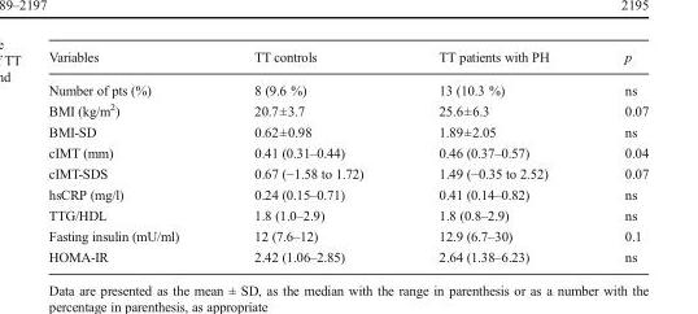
<table><thead><tr><td>Variables</td><td>TT controls</td><td>TT patients with PH</td><td>p</td></tr></thead><tbody><tr><td>Number of pts (%)</td><td>8 (9.6 %)</td><td>13 (10.3 %)</td><td>ns</td></tr><tr><td>BMI (kg/m<sup>2</sup>)</td><td>20.7±3.7</td><td>25.6±6.3</td><td>0.07</td></tr><tr><td>BMI-SD</td><td>0.62±0.98</td><td>1.89±2.05</td><td>ns</td></tr><tr><td>cIMT (mm)</td><td>0.41 (0.31–0.44)</td><td>0.46 (0.37–0.57)</td><td>0.04</td></tr><tr><td>cIMT-SDS</td><td>0.67 (−1.58 to 1.72)</td><td>1.49 (−0.35 to 2.52)</td><td>0.07</td></tr><tr><td>hsCRP (mg/l)</td><td>0.24 (0.15–0.71)</td><td>0.41 (0.14–0.82)</td><td>ns</td></tr><tr><td>TTG/HDL</td><td>1.8 (1.0–2.9)</td><td>1.8 (0.8–2.9)</td><td>ns</td></tr><tr><td>Fasting insulin (mU/ml)</td><td>12 (7.6–12)</td><td>12.9 (6.7–30)</td><td>0.1</td></tr><tr><td>HOMA-IR</td><td>2.42 (1.06–2.85)</td><td>2.64 (1.38–6.23)</td><td>ns</td></tr></tbody></table>